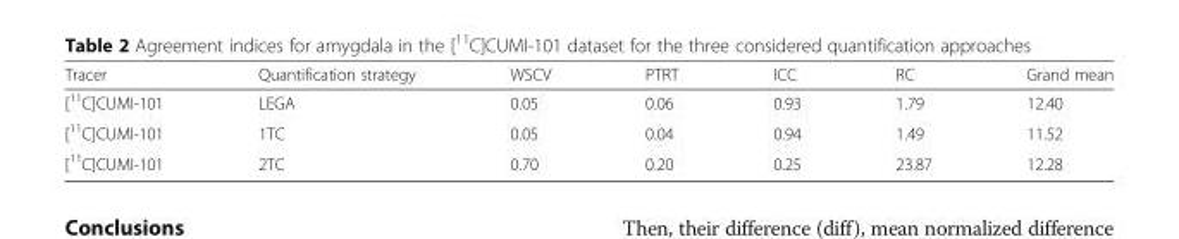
<table><thead><tr><td>Tracer</td><td>Quantification strategy</td><td>WSCV</td><td>PTRT</td><td>ICC</td><td>RC</td><td>Grand mean</td></tr></thead><tbody><tr><td>[<sup>11</sup>C]CUMI-101</td><td>LEGA</td><td>0.05</td><td>0.06</td><td>0.93</td><td>1.79</td><td>12.40</td></tr><tr><td>[<sup>11</sup>C]CUMI-101</td><td>1TC</td><td>0.05</td><td>0.04</td><td>0.94</td><td>1.49</td><td>11.52</td></tr><tr><td>[<sup>11</sup>C]CUMI-101</td><td>2TC</td><td>0.70</td><td>0.20</td><td>0.25</td><td>23.87</td><td>12.28</td></tr></tbody></table>